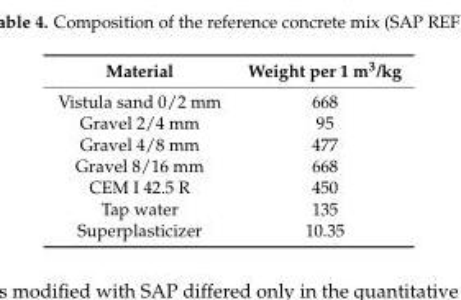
<table><thead><tr><td>Material</td><td>Weight per 1 m<sup>3</sup>/kg</td></tr></thead><tbody><tr><td>Vistula sand 0/2 mm</td><td>668</td></tr><tr><td>Gravel 2/4 mm</td><td>95</td></tr><tr><td>Gravel 4/8 mm</td><td>477</td></tr><tr><td>Gravel 8/16 mm</td><td>668</td></tr><tr><td>CEM I 42.5 R</td><td>450</td></tr><tr><td>Tap water</td><td>135</td></tr><tr><td>Superplasticizer</td><td>10.35</td></tr></tbody></table>